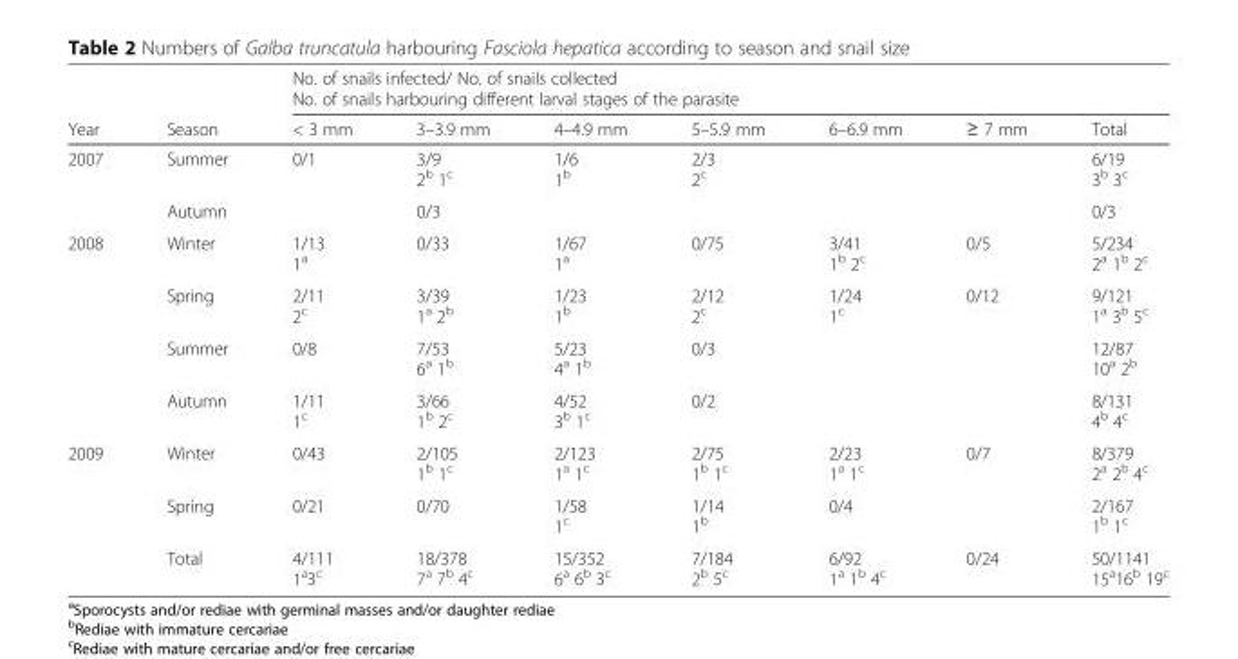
<table><thead><tr><td rowspan="2">Year</td><td rowspan="2">Season</td><td colspan="7">No. of snails infected/ No. of snails collected No. of snails harbouring different larval stages of the parasite</td></tr><tr><td>&lt; 3 mm</td><td>3–3.9 mm</td><td>4–4.9 mm</td><td>5–5.9 mm</td><td>6–6.9 mm</td><td>≥ 7 mm</td><td>Total</td></tr></thead><tbody><tr><td rowspan="2">2007</td><td>Summer</td><td>0/1</td><td>3/9 2<sup>b</sup> 1<sup>c</sup></td><td>1/6 1<sup>b</sup></td><td>2/3 2<sup>c</sup></td><td></td><td></td><td>6/19 3<sup>b</sup> 3<sup>c</sup></td></tr><tr><td>Autumn</td><td></td><td>0/3</td><td></td><td></td><td></td><td></td><td>0/3</td></tr><tr><td rowspan="4">2008</td><td>Winter</td><td>1/13 1<sup>a</sup></td><td>0/33</td><td>1/67 1<sup>a</sup></td><td>0/75</td><td>3/41 1<sup>b</sup> 2<sup>c</sup></td><td>0/5</td><td>5/234 2<sup>a</sup> 1<sup>b</sup> 2<sup>c</sup></td></tr><tr><td>Spring</td><td>2/11 2<sup>c</sup></td><td>3/39 1<sup>a</sup> 2<sup>b</sup></td><td>1/23 1<sup>b</sup></td><td>2/12 2<sup>c</sup></td><td>1/24 1<sup>c</sup></td><td>0/12</td><td>9/121 1<sup>a</sup> 3<sup>b</sup> 5<sup>c</sup></td></tr><tr><td>Summer</td><td>0/8</td><td>7/53 6<sup>a</sup> 1<sup>b</sup></td><td>5/23 4<sup>a</sup> 1<sup>b</sup></td><td>0/3</td><td></td><td></td><td>12/87 10<sup>a</sup> 2<sup>b</sup></td></tr><tr><td>Autumn</td><td>1/11 1<sup>c</sup></td><td>3/66 1<sup>b</sup> 2<sup>c</sup></td><td>4/52 3<sup>b</sup> 1<sup>c</sup></td><td>0/2</td><td></td><td></td><td>8/131 4<sup>b</sup> 4<sup>c</sup></td></tr><tr><td rowspan="3">2009</td><td>Winter</td><td>0/43</td><td>2/105 1<sup>b</sup> 1<sup>c</sup></td><td>2/123 1<sup>a</sup> 1<sup>c</sup></td><td>2/75 1<sup>b</sup> 1<sup>c</sup></td><td>2/23 1<sup>a</sup> 1<sup>c</sup></td><td>0/7</td><td>8/379 2<sup>a</sup> 2<sup>b</sup> 4<sup>c</sup></td></tr><tr><td>Spring</td><td>0/21</td><td>0/70</td><td>1/58 1<sup>c</sup></td><td>1/14 1<sup>b</sup></td><td>0/4</td><td></td><td>2/167 1<sup>b</sup> 1<sup>c</sup></td></tr><tr><td>Total</td><td>4/111 1<sup>a</sup>3<sup>c</sup></td><td>18/378 7<sup>a</sup> 7<sup>b</sup> 4<sup>c</sup></td><td>15/352 6<sup>a</sup> 6<sup>b</sup> 3<sup>c</sup></td><td>7/184 2<sup>b</sup> 5<sup>c</sup></td><td>6/92 1<sup>a</sup> 1<sup>b</sup> 4<sup>c</sup></td><td>0/24</td><td>50/1141 15<sup>a</sup>16<sup>b</sup> 19<sup>c</sup></td></tr></tbody></table>